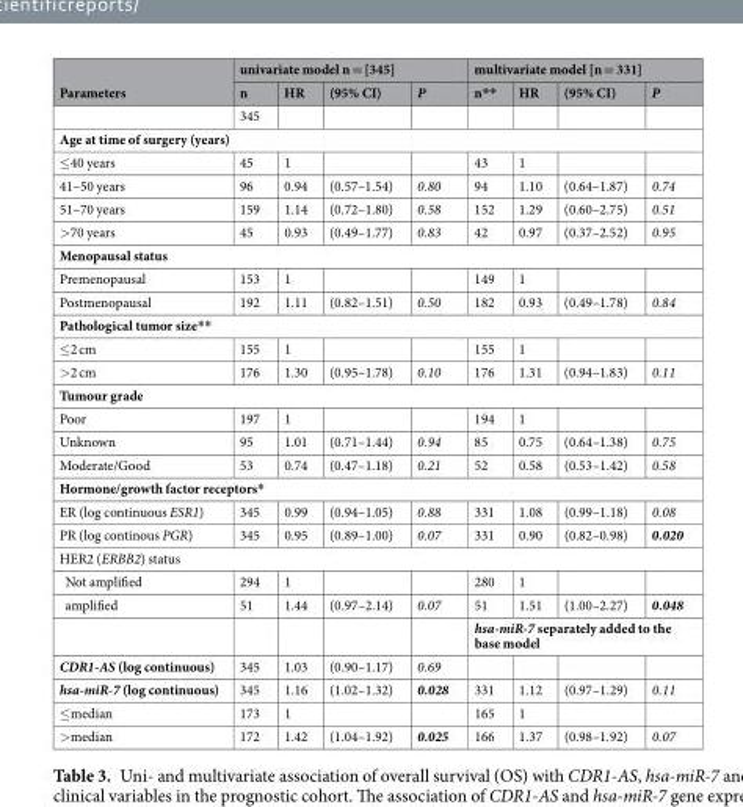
<table><thead><tr><td rowspan="2">Parameters</td><td colspan="4">univariate model n = [345]</td><td colspan="4">multivariate model [n = 331]</td></tr><tr><td>n</td><td>HR</td><td>(95% CI)</td><td>P</td><td>n**</td><td>HR</td><td>(95% CI)</td><td>P</td></tr></thead><tbody><tr><td></td><td>345</td><td></td><td></td><td></td><td></td><td></td><td></td><td></td></tr><tr><td colspan="9">Age at time of surgery (years)</td></tr><tr><td>≤40 years</td><td>45</td><td>1</td><td></td><td></td><td>43</td><td>1</td><td></td><td></td></tr><tr><td>41–50 years</td><td>96</td><td>0.94</td><td>(0.57–1.54)</td><td>0.80</td><td>94</td><td>1.10</td><td>(0.64–1.87)</td><td>0.74</td></tr><tr><td>51–70 years</td><td>159</td><td>1.14</td><td>(0.72–1.80)</td><td>0.58</td><td>152</td><td>1.29</td><td>(0.60–2.75)</td><td>0.51</td></tr><tr><td>&gt;70 years</td><td>45</td><td>0.93</td><td>(0.49–1.77)</td><td>0.83</td><td>42</td><td>0.97</td><td>(0.37–2.52)</td><td>0.95</td></tr><tr><td colspan="9">Menopausal status</td></tr><tr><td>Premenopausal</td><td>153</td><td>1</td><td></td><td></td><td>149</td><td>1</td><td></td><td></td></tr><tr><td>Postmenopausal</td><td>192</td><td>1.11</td><td>(0.82–1.51)</td><td>0.50</td><td>182</td><td>0.93</td><td>(0.49–1.78)</td><td>0.84</td></tr><tr><td colspan="9">Pathological tumor size**</td></tr><tr><td>≤2 cm</td><td>155</td><td>1</td><td></td><td></td><td>155</td><td>1</td><td></td><td></td></tr><tr><td>&gt;2 cm</td><td>176</td><td>1.30</td><td>(0.95–1.78)</td><td>0.10</td><td>176</td><td>1.31</td><td>(0.94–1.83)</td><td>0.11</td></tr><tr><td colspan="9">Tumour grade</td></tr><tr><td>Poor</td><td>197</td><td>1</td><td></td><td></td><td>194</td><td>1</td><td></td><td></td></tr><tr><td>Unknown</td><td>95</td><td>1.01</td><td>(0.71–1.44)</td><td>0.94</td><td>85</td><td>0.75</td><td>(0.64–1.38)</td><td>0.75</td></tr><tr><td>Moderate/Good</td><td>53</td><td>0.74</td><td>(0.47–1.18)</td><td>0.21</td><td>52</td><td>0.58</td><td>(0.53–1.42)</td><td>0.58</td></tr><tr><td colspan="9">Hormone/growth factor receptors*</td></tr><tr><td>ER (log continuous ESR1)</td><td>345</td><td>0.99</td><td>(0.94–1.05)</td><td>0.88</td><td>331</td><td>1.08</td><td>(0.99–1.18)</td><td>0.08</td></tr><tr><td>PR (log continous PGR)</td><td>345</td><td>0.95</td><td>(0.89–1.00)</td><td>0.07</td><td>331</td><td>0.90</td><td>(0.82–0.98)</td><td>0.020</td></tr><tr><td colspan="9">HER2 (ERBB2) status</td></tr><tr><td>Not amplified</td><td>294</td><td>1</td><td></td><td></td><td>280</td><td>1</td><td></td><td></td></tr><tr><td rowspan="2">amplified</td><td>51</td><td>1.44</td><td>(0.97–2.14)</td><td>0.07</td><td>51</td><td>1.51</td><td>(1.00–2.27)</td><td>0.048</td></tr><tr><td></td><td></td><td></td><td></td><td colspan="4">hsa-miR-7 separately added to the base model</td></tr><tr><td>CDR1-AS (log continuous)</td><td>345</td><td>1.03</td><td>(0.90–1.17)</td><td>0.69</td><td></td><td></td><td></td><td></td></tr><tr><td>hsa-miR-7 (log continuous)</td><td>345</td><td>1.16</td><td>(1.02–1.32)</td><td>0.028</td><td>331</td><td>1.12</td><td>(0.97–1.29)</td><td>0.11</td></tr><tr><td>≤median</td><td>173</td><td>1</td><td></td><td></td><td>165</td><td>1</td><td></td><td></td></tr><tr><td>&gt;median</td><td>172</td><td>1.42</td><td>(1.04–1.92)</td><td>0.025</td><td>166</td><td>1.37</td><td>(0.98–1.92)</td><td>0.07</td></tr></tbody></table>